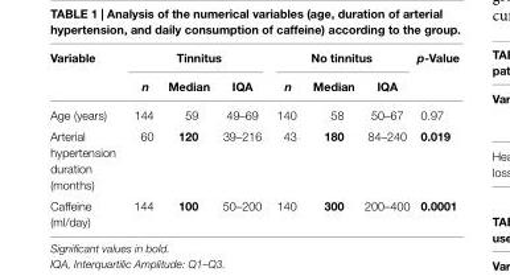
<table><thead><tr><td rowspan="2">Variable</td><td colspan="3">Tinnitus</td><td colspan="3">no tinnitus</td><td rowspan="2">p-Value</td></tr><tr><td>n</td><td>Median</td><td>iQa</td><td>n</td><td>Median</td><td>iQa</td></tr></thead><tbody><tr><td>Age (years)</td><td>144</td><td>59</td><td>49–69</td><td>140</td><td>58</td><td>50–67</td><td>0.97</td></tr><tr><td>Arterial hypertension duration (months)</td><td>60</td><td>120</td><td>39–216</td><td>43</td><td>180</td><td>84–240</td><td>0.019</td></tr><tr><td>Caffeine (ml/day)</td><td>144</td><td>100</td><td>50–200</td><td>140</td><td>300</td><td>200–400</td><td>0.0001</td></tr></tbody></table>